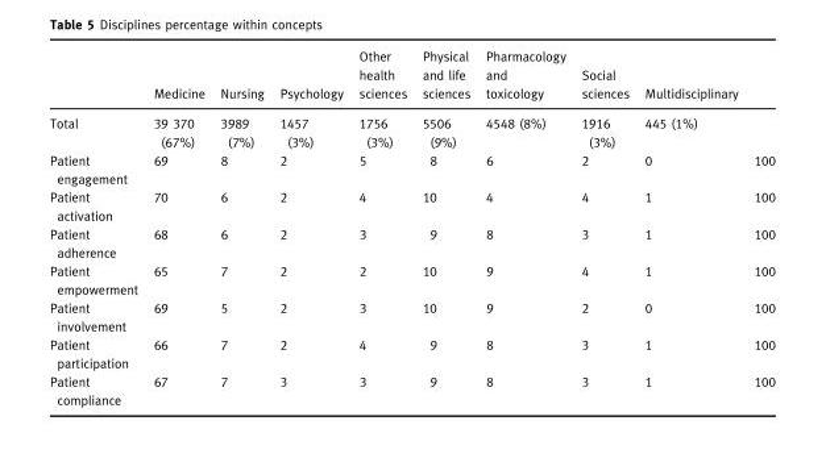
<table><thead><tr><td></td><td>Medicine</td><td>Nursing</td><td>Psychology</td><td>Other health sciences</td><td>Physical and life sciences</td><td>Pharmacology and toxicology</td><td>Social sciences</td><td>Multidisciplinary</td><td></td></tr></thead><tbody><tr><td>Total</td><td>39 370 (67%)</td><td>3989 (7%)</td><td>1457 (3%)</td><td>1756 (3%)</td><td>5506 (9%)</td><td>4548 (8%)</td><td>1916 (3%)</td><td>445 (1%)</td><td></td></tr><tr><td>Patient engagement</td><td>69</td><td>8</td><td>2</td><td>5</td><td>8</td><td>6</td><td>2</td><td>0</td><td>100</td></tr><tr><td>Patient activation</td><td>70</td><td>6</td><td>2</td><td>4</td><td>10</td><td>4</td><td>4</td><td>1</td><td>100</td></tr><tr><td>Patient adherence</td><td>68</td><td>6</td><td>2</td><td>3</td><td>9</td><td>8</td><td>3</td><td>1</td><td>100</td></tr><tr><td>Patient empowerment</td><td>65</td><td>7</td><td>2</td><td>2</td><td>10</td><td>9</td><td>4</td><td>1</td><td>100</td></tr><tr><td>Patient involvement</td><td>69</td><td>5</td><td>2</td><td>3</td><td>10</td><td>9</td><td>2</td><td>0</td><td>100</td></tr><tr><td>Patient participation</td><td>66</td><td>7</td><td>2</td><td>4</td><td>9</td><td>8</td><td>3</td><td>1</td><td>100</td></tr><tr><td>Patient compliance</td><td>67</td><td>7</td><td>3</td><td>3</td><td>9</td><td>8</td><td>3</td><td>1</td><td>100</td></tr></tbody></table>